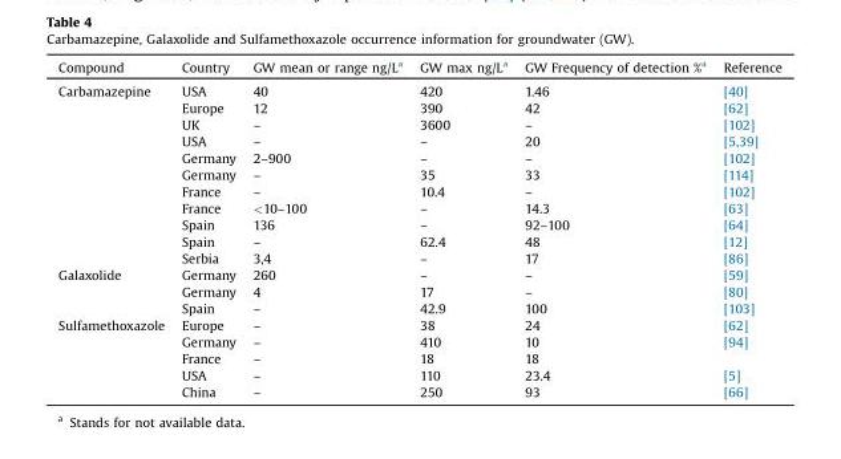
<table><thead><tr><td>Compound</td><td>Country</td><td>GW mean or range ng/L<sup>a</sup></td><td>GW max ng/L<sup>a</sup></td><td>GW Frequency of detection %<sup>a</sup></td><td>Reference</td></tr></thead><tbody><tr><td rowspan="11">Carbamazepine</td><td>USA</td><td>40</td><td>420</td><td>1.46</td><td>[40]</td></tr><tr><td>Europe</td><td>12</td><td>390</td><td>42</td><td>[62]</td></tr><tr><td>UK</td><td>–</td><td>3600</td><td>–</td><td>[102]</td></tr><tr><td>USA</td><td>–</td><td>–</td><td>20</td><td>[5,39]</td></tr><tr><td>Germany</td><td>2–900</td><td>–</td><td>–</td><td>[102]</td></tr><tr><td>Germany</td><td>–</td><td>35</td><td>33</td><td>[114]</td></tr><tr><td>France</td><td>–</td><td>10.4</td><td>–</td><td>[102]</td></tr><tr><td>France</td><td>&lt;10–100</td><td>–</td><td>14.3</td><td>[63]</td></tr><tr><td>Spain</td><td>136</td><td>–</td><td>92–100</td><td>[64]</td></tr><tr><td>Spain</td><td>–</td><td>62.4</td><td>48</td><td>[12]</td></tr><tr><td>Serbia</td><td>3,4</td><td>–</td><td>17</td><td>[86]</td></tr><tr><td rowspan="3">Galaxolide</td><td>Germany</td><td>260</td><td>–</td><td>–</td><td>[59]</td></tr><tr><td>Germany</td><td>4</td><td>17</td><td>–</td><td>[80]</td></tr><tr><td>Spain</td><td>–</td><td>42.9</td><td>100</td><td>[103]</td></tr><tr><td rowspan="5">Sulfamethoxazole</td><td>Europe</td><td>–</td><td>38</td><td>24</td><td>[62]</td></tr><tr><td>Germany</td><td>–</td><td>410</td><td>10</td><td>[94]</td></tr><tr><td>France</td><td>–</td><td>18</td><td>18</td><td></td></tr><tr><td>USA</td><td>–</td><td>110</td><td>23.4</td><td>[5]</td></tr><tr><td>China</td><td>–</td><td>250</td><td>93</td><td>[66]</td></tr></tbody></table>